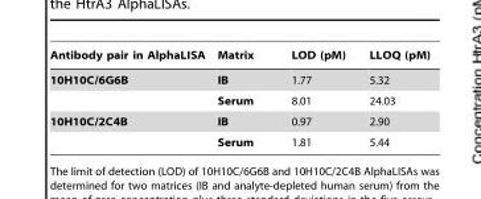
<table><thead><tr><td>Antibody pair in AlphaLISA</td><td>Matrix</td><td>LOD (pM)</td><td>LLOQ (pM)</td></tr></thead><tbody><tr><td rowspan="2">10H10C/6G6B</td><td>IB</td><td>1.77</td><td>5.32</td></tr><tr><td>Serum</td><td>8.01</td><td>24.03</td></tr><tr><td rowspan="2">10H10C/2C4B</td><td>IB</td><td>0.97</td><td>2.90</td></tr><tr><td>Serum</td><td>1.81</td><td>5.44</td></tr></tbody></table>